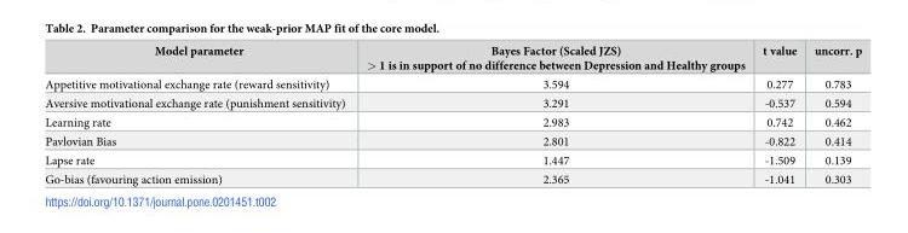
<table><thead><tr><td>Model parameter</td><td>Bayes Factor (Scaled JZS) &gt; 1 is in support of no difference between Depression and Healthy groups</td><td>t value</td><td>uncorr. p</td></tr></thead><tbody><tr><td>Appetitive motivational exchange rate (reward sensitivity)</td><td>3.594</td><td>0.277</td><td>0.783</td></tr><tr><td>Aversive motivational exchange rate (punishment sensitivity)</td><td>3.291</td><td>-0.537</td><td>0.594</td></tr><tr><td>Learning rate</td><td>2.983</td><td>0.742</td><td>0.462</td></tr><tr><td>Pavlovian Bias</td><td>2.801</td><td>-0.822</td><td>0.414</td></tr><tr><td>Lapse rate</td><td>1.447</td><td>-1.509</td><td>0.139</td></tr><tr><td>Go-bias (favouring action emission)</td><td>2.365</td><td>-1.041</td><td>0.303</td></tr></tbody></table>